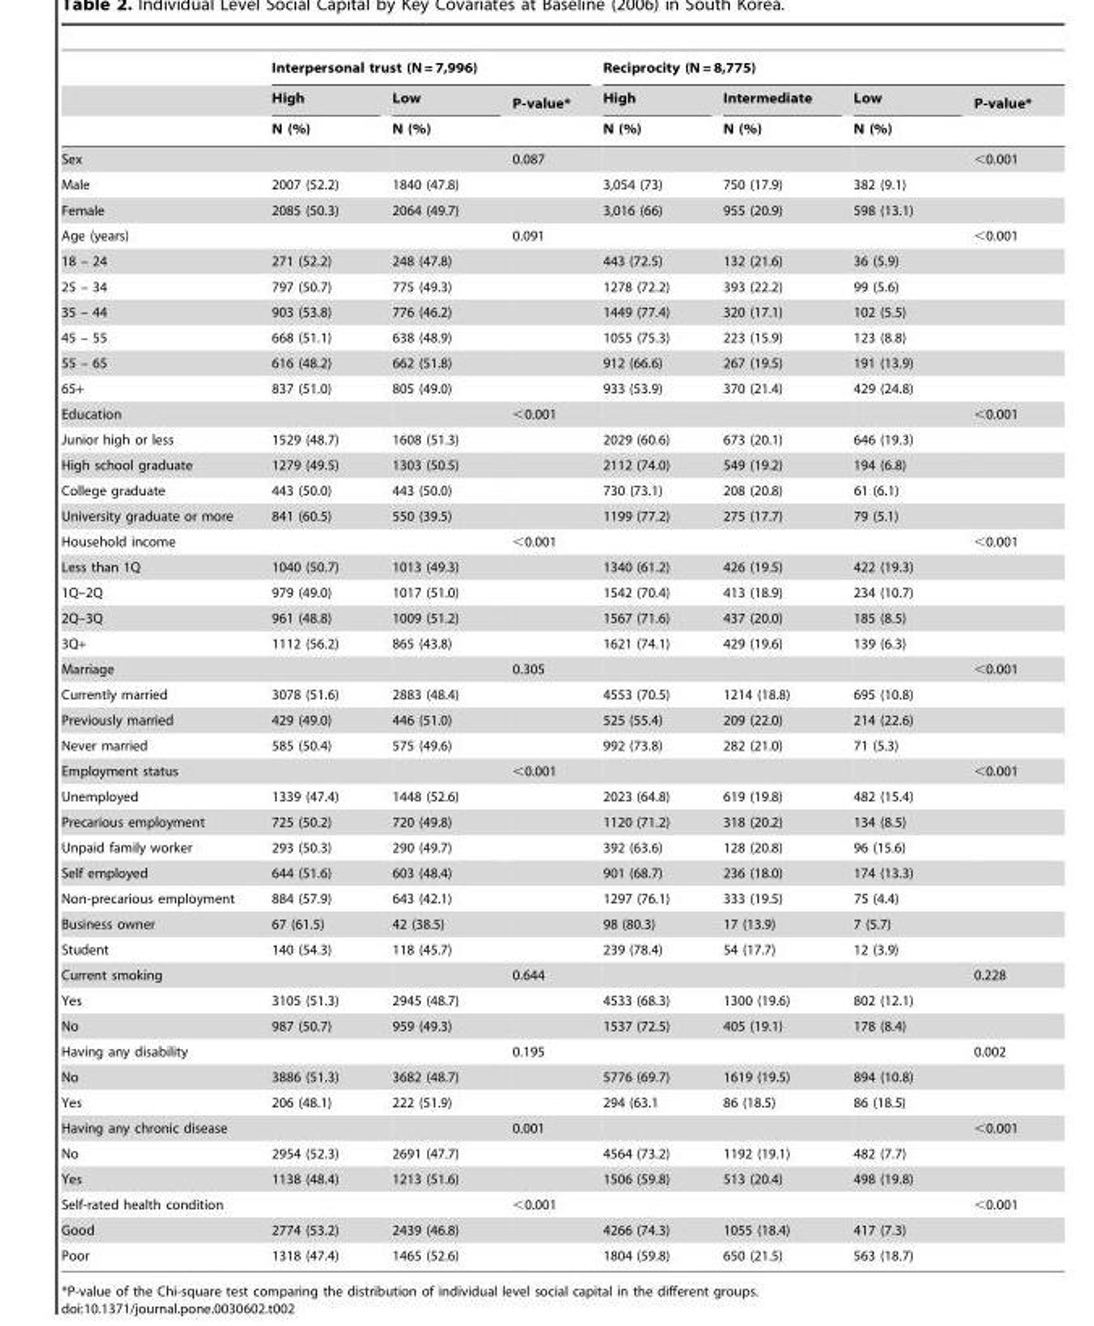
<table><thead><tr><td rowspan="3"></td><td colspan="3">Interpersonal trust (N = 7,996)</td><td colspan="4">Reciprocity (N = 8,775)</td></tr><tr><td rowspan="2">High N (%)</td><td rowspan="2">Low N (%)</td><td rowspan="2">P-value*</td><td rowspan="2">High N (%)</td><td rowspan="2">Intermediate N (%)</td><td rowspan="2">Low N (%)</td><td rowspan="2">P-value*</td></tr><tr></tr></thead><tbody><tr><td>Sex</td><td></td><td></td><td>0.087</td><td></td><td></td><td></td><td>&lt;0.001</td></tr><tr><td>Male</td><td>2007 (52.2)</td><td>1840 (47.8)</td><td></td><td>3,054 (73)</td><td>750 (17.9)</td><td>382 (9.1)</td><td></td></tr><tr><td>Female</td><td>2085 (50.3)</td><td>2064 (49.7)</td><td></td><td>3,016 (66)</td><td>955 (20.9)</td><td>598 (13.1)</td><td></td></tr><tr><td>Age (years)</td><td></td><td></td><td>0.091</td><td></td><td></td><td></td><td>&lt;0.001</td></tr><tr><td>18 – 24</td><td>271 (52.2)</td><td>248 (47.8)</td><td></td><td>443 (72.5)</td><td>132 (21.6)</td><td>36 (5.9)</td><td></td></tr><tr><td>25 – 34</td><td>797 (50.7)</td><td>775 (49.3)</td><td></td><td>1278 (72.2)</td><td>393 (22.2)</td><td>99 (5.6)</td><td></td></tr><tr><td>35 – 44</td><td>903 (53.8)</td><td>776 (46.2)</td><td></td><td>1449 (77.4)</td><td>320 (17.1)</td><td>102 (5.5)</td><td></td></tr><tr><td>45 – 55</td><td>668 (51.1)</td><td>638 (48.9)</td><td></td><td>1055 (75.3)</td><td>223 (15.9)</td><td>123 (8.8)</td><td></td></tr><tr><td>55 – 65</td><td>616 (48.2)</td><td>662 (51.8)</td><td></td><td>912 (66.6)</td><td>267 (19.5)</td><td>191 (13.9)</td><td></td></tr><tr><td>65+</td><td>837 (51.0)</td><td>805 (49.0)</td><td></td><td>933 (53.9)</td><td>370 (21.4)</td><td>429 (24.8)</td><td></td></tr><tr><td>Education</td><td></td><td></td><td>&lt;0.001</td><td></td><td></td><td></td><td>&lt;0.001</td></tr><tr><td>Junior high or less</td><td>1529 (48.7)</td><td>1608 (51.3)</td><td></td><td>2029 (60.6)</td><td>673 (20.1)</td><td>646 (19.3)</td><td></td></tr><tr><td>High school graduate</td><td>1279 (49.5)</td><td>1303 (50.5)</td><td></td><td>2112 (74.0)</td><td>549 (19.2)</td><td>194 (6.8)</td><td></td></tr><tr><td>College graduate</td><td>443 (50.0)</td><td>443 (50.0)</td><td></td><td>730 (73.1)</td><td>208 (20.8)</td><td>61 (6.1)</td><td></td></tr><tr><td>University graduate or more</td><td>841 (60.5)</td><td>550 (39.5)</td><td></td><td>1199 (77.2)</td><td>275 (17.7)</td><td>79 (5.1)</td><td></td></tr><tr><td>Household income</td><td></td><td></td><td>&lt;0.001</td><td></td><td></td><td></td><td>&lt;0.001</td></tr><tr><td>Less than 1Q</td><td>1040 (50.7)</td><td>1013 (49.3)</td><td></td><td>1340 (61.2)</td><td>426 (19.5)</td><td>422 (19.3)</td><td></td></tr><tr><td>1Q–2Q</td><td>979 (49.0)</td><td>1017 (51.0)</td><td></td><td>1542 (70.4)</td><td>413 (18.9)</td><td>234 (10.7)</td><td></td></tr><tr><td>2Q–3Q</td><td>961 (48.8)</td><td>1009 (51.2)</td><td></td><td>1567 (71.6)</td><td>437 (20.0)</td><td>185 (8.5)</td><td></td></tr><tr><td>3Q+</td><td>1112 (56.2)</td><td>865 (43.8)</td><td></td><td>1621 (74.1)</td><td>429 (19.6)</td><td>139 (6.3)</td><td></td></tr><tr><td>Marriage</td><td></td><td></td><td>0.305</td><td></td><td></td><td></td><td>&lt;0.001</td></tr><tr><td>Currently married</td><td>3078 (51.6)</td><td>2883 (48.4)</td><td></td><td>4553 (70.5)</td><td>1214 (18.8)</td><td>695 (10.8)</td><td></td></tr><tr><td>Previously married</td><td>429 (49.0)</td><td>446 (51.0)</td><td></td><td>525 (55.4)</td><td>209 (22.0)</td><td>214 (22.6)</td><td></td></tr><tr><td>Never married</td><td>585 (50.4)</td><td>575 (49.6)</td><td></td><td>992 (73.8)</td><td>282 (21.0)</td><td>71 (5.3)</td><td></td></tr><tr><td>Employment status</td><td></td><td></td><td>&lt;0.001</td><td></td><td></td><td></td><td>&lt;0.001</td></tr><tr><td>Unemployed</td><td>1339 (47.4)</td><td>1448 (52.6)</td><td></td><td>2023 (64.8)</td><td>619 (19.8)</td><td>482 (15.4)</td><td></td></tr><tr><td>Precarious employment</td><td>725 (50.2)</td><td>720 (49.8)</td><td></td><td>1120 (71.2)</td><td>318 (20.2)</td><td>134 (8.5)</td><td></td></tr><tr><td>Unpaid family worker</td><td>293 (50.3)</td><td>290 (49.7)</td><td></td><td>392 (63.6)</td><td>128 (20.8)</td><td>96 (15.6)</td><td></td></tr><tr><td>Self employed</td><td>644 (51.6)</td><td>603 (48.4)</td><td></td><td>901 (68.7)</td><td>236 (18.0)</td><td>174 (13.3)</td><td></td></tr><tr><td>Non-precarious employment</td><td>884 (57.9)</td><td>643 (42.1)</td><td></td><td>1297 (76.1)</td><td>333 (19.5)</td><td>75 (4.4)</td><td></td></tr><tr><td>Business owner</td><td>67 (61.5)</td><td>42 (38.5)</td><td></td><td>98 (80.3)</td><td>17 (13.9)</td><td>7 (5.7)</td><td></td></tr><tr><td>Student</td><td>140 (54.3)</td><td>118 (45.7)</td><td></td><td>239 (78.4)</td><td>54 (17.7)</td><td>12 (3.9)</td><td></td></tr><tr><td>Current smoking</td><td></td><td></td><td>0.644</td><td></td><td></td><td></td><td>0.228</td></tr><tr><td>Yes</td><td>3105 (51.3)</td><td>2945 (48.7)</td><td></td><td>4533 (68.3)</td><td>1300 (19.6)</td><td>802 (12.1)</td><td></td></tr><tr><td>No</td><td>987 (50.7)</td><td>959 (49.3)</td><td></td><td>1537 (72.5)</td><td>405 (19.1)</td><td>178 (8.4)</td><td></td></tr><tr><td>Having any disability</td><td></td><td></td><td>0.195</td><td></td><td></td><td></td><td>0.002</td></tr><tr><td>No</td><td>3886 (51.3)</td><td>3682 (48.7)</td><td></td><td>5776 (69.7)</td><td>1619 (19.5)</td><td>894 (10.8)</td><td></td></tr><tr><td>Yes</td><td>206 (48.1)</td><td>222 (51.9)</td><td></td><td>294 (63.1</td><td>86 (18.5)</td><td>86 (18.5)</td><td></td></tr><tr><td colspan="2">Having any chronic disease</td><td></td><td>0.001</td><td></td><td></td><td></td><td>&lt;0.001</td></tr><tr><td>No</td><td>2954 (52.3)</td><td>2691 (47.7)</td><td></td><td>4564 (73.2)</td><td>1192 (19.1)</td><td>482 (7.7)</td><td></td></tr><tr><td>Yes</td><td>1138 (48.4)</td><td>1213 (51.6)</td><td></td><td>1506 (59.8)</td><td>513 (20.4)</td><td>498 (19.8)</td><td></td></tr><tr><td colspan="2">Self-rated health condition</td><td></td><td>&lt;0.001</td><td></td><td></td><td></td><td>&lt;0.001</td></tr><tr><td>Good</td><td>2774 (53.2)</td><td>2439 (46.8)</td><td></td><td>4266 (74.3)</td><td>1055 (18.4)</td><td>417 (7.3)</td><td></td></tr><tr><td>Poor</td><td>1318 (47.4)</td><td>1465 (52.6)</td><td></td><td>1804 (59.8)</td><td>650 (21.5)</td><td>563 (18.7)</td><td></td></tr></tbody></table>